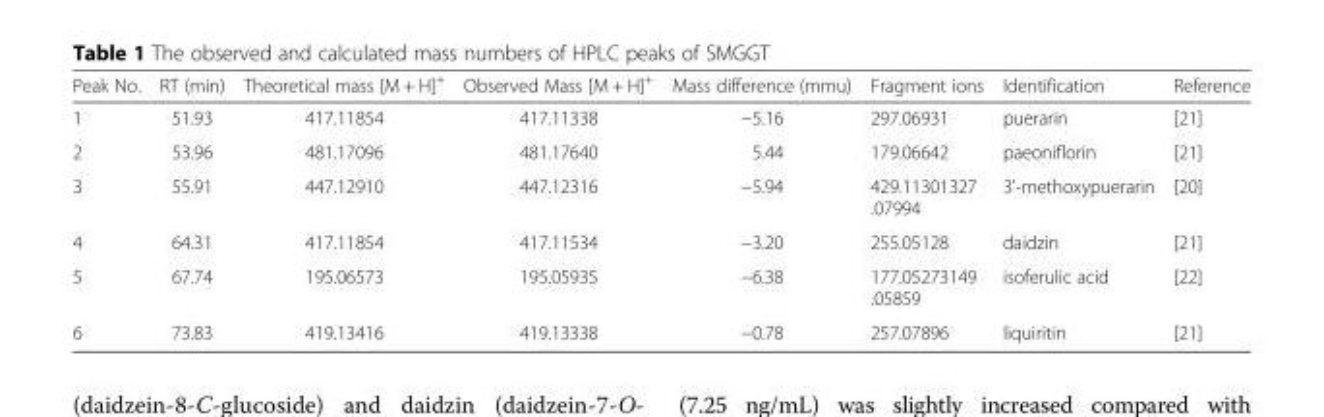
<table><thead><tr><td>Peak No.</td><td>RT (min)</td><td>Theoretical mass [M + H]<sup>+</sup></td><td>Observed Mass [M + H]<sup>+</sup></td><td>Mass difference (mmu)</td><td>Fragment ions</td><td>Identification</td><td>Reference</td></tr></thead><tbody><tr><td>1</td><td>51.93</td><td>417.11854</td><td>417.11338</td><td>−5.16</td><td>297.06931</td><td>puerarin</td><td>[21]</td></tr><tr><td>2</td><td>53.96</td><td>481.17096</td><td>481.17640</td><td>5.44</td><td>179.06642</td><td>paeoniflorin</td><td>[21]</td></tr><tr><td>3</td><td>55.91</td><td>447.12910</td><td>447.12316</td><td>−5.94</td><td>429.11301327 .07994</td><td>3&#x27;-methoxypuerarin</td><td>[20]</td></tr><tr><td>4</td><td>64.31</td><td>417.11854</td><td>417.11534</td><td>−3.20</td><td>255.05128</td><td>daidzin</td><td>[21]</td></tr><tr><td>5</td><td>67.74</td><td>195.06573</td><td>195.05935</td><td>−6.38</td><td>177.05273149 .05859</td><td>isoferulic acid</td><td>[22]</td></tr><tr><td>6</td><td>73.83</td><td>419.13416</td><td>419.13338</td><td>−0.78</td><td>257.07896</td><td>liquiritin</td><td>[21]</td></tr></tbody></table>